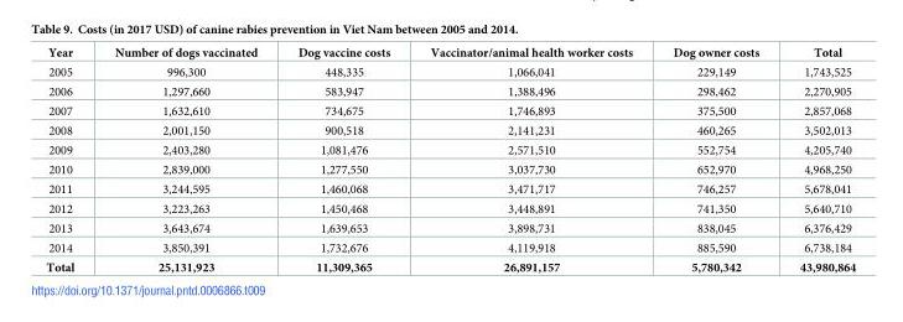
<table><thead><tr><td>Year</td><td>Number of dogs vaccinated</td><td>Dog vaccine costs</td><td>Vaccinator/animal health worker costs</td><td>Dog owner costs</td><td>Total</td></tr></thead><tbody><tr><td>2005</td><td>996,300</td><td>448,335</td><td>1,066,041</td><td>229,149</td><td>1,743,525</td></tr><tr><td>2006</td><td>1,297,660</td><td>583,947</td><td>1,388,496</td><td>298,462</td><td>2,270,905</td></tr><tr><td>2007</td><td>1,632,610</td><td>734,675</td><td>1,746,893</td><td>375,500</td><td>2,857,068</td></tr><tr><td>2008</td><td>2,001,150</td><td>900,518</td><td>2,141,231</td><td>460,265</td><td>3,502,013</td></tr><tr><td>2009</td><td>2,403,280</td><td>1,081,476</td><td>2,571,510</td><td>552,754</td><td>4,205,740</td></tr><tr><td>2010</td><td>2,839,000</td><td>1,277,550</td><td>3,037,730</td><td>652,970</td><td>4,968,250</td></tr><tr><td>2011</td><td>3,244,595</td><td>1,460,068</td><td>3,471,717</td><td>746,257</td><td>5,678,041</td></tr><tr><td>2012</td><td>3,223,263</td><td>1,450,468</td><td>3,448,891</td><td>741,350</td><td>5,640,710</td></tr><tr><td>2013</td><td>3,643,674</td><td>1,639,653</td><td>3,898,731</td><td>838,045</td><td>6,376,429</td></tr><tr><td>2014</td><td>3,850,391</td><td>1,732,676</td><td>4,119,918</td><td>885,590</td><td>6,738,184</td></tr><tr><td>Total</td><td>25,131,923</td><td>11,309,365</td><td>26,891,157</td><td>5,780,342</td><td>43,980,864</td></tr></tbody></table>